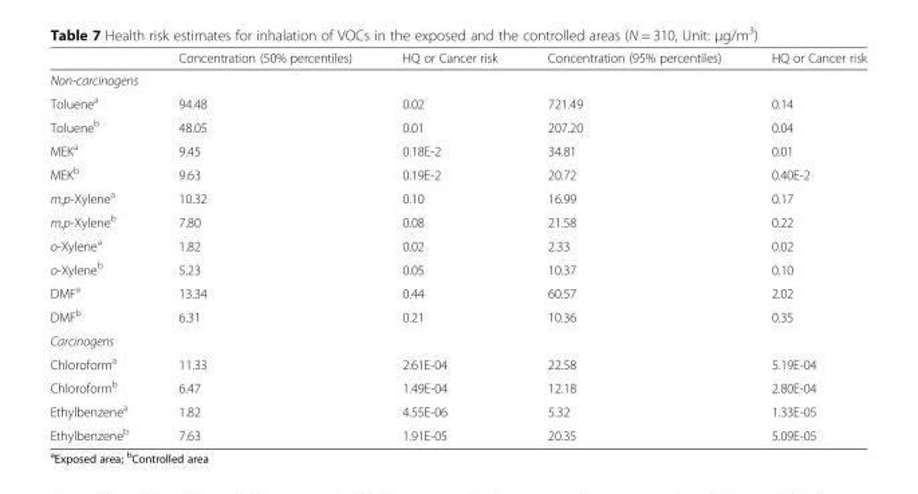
<table><thead><tr><td></td><td>Concentration (50% percentiles)</td><td>HQ or Cancer risk</td><td>Concentration (95% percentiles)</td><td>HQ or Cancer risk</td></tr></thead><tbody><tr><td colspan="5">Non-carcinogens</td></tr><tr><td>Toluene<sup>a</sup></td><td>94.48</td><td>0.02</td><td>721.49</td><td>0.14</td></tr><tr><td>Toluene<sup>b</sup></td><td>48.05</td><td>0.01</td><td>207.20</td><td>0.04</td></tr><tr><td>MEK<sup>a</sup></td><td>9.45</td><td>0.18E-2</td><td>34.81</td><td>0.01</td></tr><tr><td>MEK<sup>b</sup></td><td>9.63</td><td>0.19E-2</td><td>20.72</td><td>0.40E-2</td></tr><tr><td>m,p-Xylene<sup>a</sup></td><td>10.32</td><td>0.10</td><td>16.99</td><td>0.17</td></tr><tr><td>m,p-Xylene<sup>b</sup></td><td>7.80</td><td>0.08</td><td>21.58</td><td>0.22</td></tr><tr><td>o-Xylene<sup>a</sup></td><td>1.82</td><td>0.02</td><td>2.33</td><td>0.02</td></tr><tr><td>o-Xylene<sup>b</sup></td><td>5.23</td><td>0.05</td><td>10.37</td><td>0.10</td></tr><tr><td>DMF<sup>a</sup></td><td>13.34</td><td>0.44</td><td>60.57</td><td>2.02</td></tr><tr><td>DMF<sup>b</sup></td><td>6.31</td><td>0.21</td><td>10.36</td><td>0.35</td></tr><tr><td colspan="5">Carcinogens</td></tr><tr><td>Chloroform<sup>a</sup></td><td>11.33</td><td>2.61E-04</td><td>22.58</td><td>5.19E-04</td></tr><tr><td>Chloroform<sup>b</sup></td><td>6.47</td><td>1.49E-04</td><td>12.18</td><td>2.80E-04</td></tr><tr><td>Ethylbenzene<sup>a</sup></td><td>1.82</td><td>4.55E-06</td><td>5.32</td><td>1.33E-05</td></tr><tr><td>Ethylbenzene<sup>b</sup></td><td>7.63</td><td>1.91E-05</td><td>20.35</td><td>5.09E-05</td></tr></tbody></table>